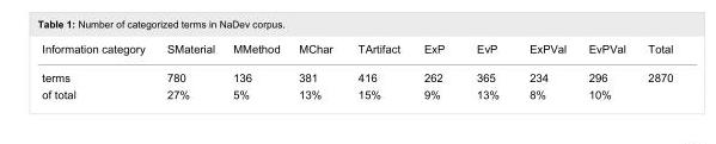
<table><tbody><tr><td>Information category</td><td>SMaterial</td><td>MMethod</td><td>MChar</td><td>TArtifact</td><td>ExP</td><td>EvP</td><td>ExPVal</td><td>EvPVal</td><td>Total</td></tr><tr><td>terms</td><td>780</td><td>136</td><td>381</td><td>416</td><td>262</td><td>365</td><td>234</td><td>296</td><td>2870</td></tr><tr><td>of total</td><td>27%</td><td>5%</td><td>13%</td><td>15%</td><td>9%</td><td>13%</td><td>8%</td><td>10%</td><td></td></tr></tbody></table>